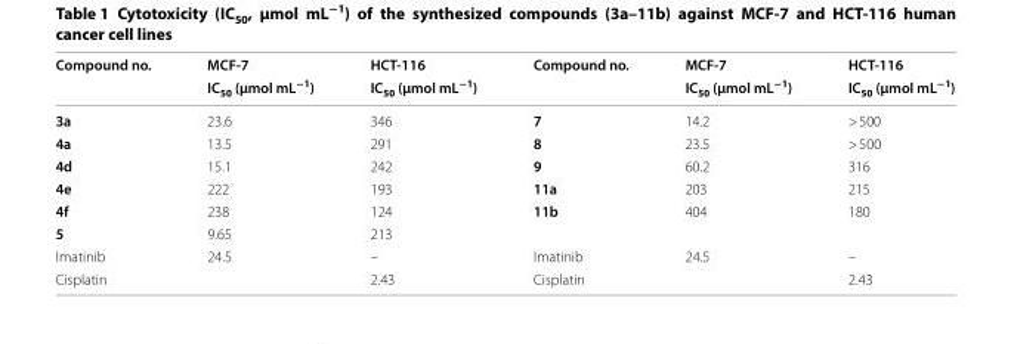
<table><thead><tr><td rowspan="2">Compound no.</td><td rowspan="2">MCF-7 IC<sub>50</sub> (µmol mL<sup>−1</sup>)</td><td rowspan="2">HCT-116 IC<sub>50</sub> (µmol mL<sup>−1</sup>)</td><td rowspan="2">Compound no.</td><td rowspan="2">MCF-7 IC<sub>50</sub> (µmol mL<sup>−1</sup>)</td><td rowspan="2">HCT-116 IC<sub>50</sub> (µmol mL<sup>−1</sup>)</td></tr><tr></tr></thead><tbody><tr><td>3a</td><td>23.6</td><td>346</td><td>7</td><td>14.2</td><td>&gt; 500</td></tr><tr><td>4a</td><td>13.5</td><td>291</td><td>8</td><td>23.5</td><td>&gt; 500</td></tr><tr><td>4d</td><td>15.1</td><td>242</td><td>9</td><td>60.2</td><td>316</td></tr><tr><td>4e</td><td>222</td><td>193</td><td>11a</td><td>203</td><td>215</td></tr><tr><td>4f</td><td>238</td><td>124</td><td>11b</td><td>404</td><td>180</td></tr><tr><td>5</td><td>9.65</td><td>213</td><td></td><td></td><td></td></tr><tr><td>Imatinib</td><td>24.5</td><td>–</td><td>Imatinib</td><td>24.5</td><td>–</td></tr><tr><td>Cisplatin</td><td></td><td>2.43</td><td>Cisplatin</td><td></td><td>2.43</td></tr></tbody></table>